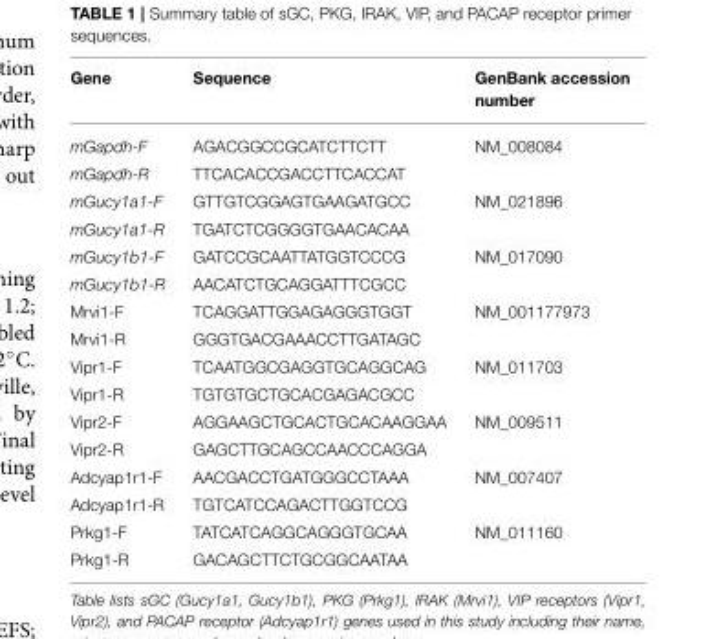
<table><thead><tr><td>Gene</td><td>Sequence</td><td>GenBank accession number</td></tr></thead><tbody><tr><td>mGapdh-F</td><td>AGACGGCCGCATCTTCTT</td><td>NM_008084</td></tr><tr><td>mGapdh-R</td><td>TTCACACCGACCTTCACCAT</td><td></td></tr><tr><td>mGucy1a1-F</td><td>GTTGTCGGAGTGAAGATGCC</td><td>NM_021896</td></tr><tr><td>mGucy1a1-R</td><td>TGATCTCGGGGTGAACACAA</td><td></td></tr><tr><td>mGucy1b1-F</td><td>GATCCGCAATTATGGTCCCG</td><td>NM_017090</td></tr><tr><td>mGucy1b1-R</td><td>AACATCTGCAGGATTTCGCC</td><td></td></tr><tr><td>Mrvi1-F</td><td>TCAGGATTGGAGAGGGTGGT</td><td>NM_001177973</td></tr><tr><td>Mrvi1-R</td><td>GGGTGACGAAACCTTGATAGC</td><td></td></tr><tr><td>Vipr1-F</td><td>TCAATGGCGAGGTGCAGGCAG</td><td>NM_011703</td></tr><tr><td>Vipr1-R</td><td>TGTGTGCTGCACGAGACGCC</td><td></td></tr><tr><td>Vipr2-F</td><td>AGGAAGCTGCACTGCACAAGGAA</td><td>NM_009511</td></tr><tr><td>Vipr2-R</td><td>GAGCTTGCAGCCAACCCAGGA</td><td></td></tr><tr><td>Adcyap1r1-F</td><td>AACGACCTGATGGGCCTAAA</td><td>NM_007407</td></tr><tr><td>Adcyap1r1-R</td><td>TGTCATCCAGACTTGGTCCG</td><td></td></tr><tr><td>Prkg1-F</td><td>TATCATCAGGCAGGGTGCAA</td><td>NM_011160</td></tr><tr><td>Prkg1-R</td><td>GACAGCTTCTGCGGCAATAA</td><td></td></tr></tbody></table>